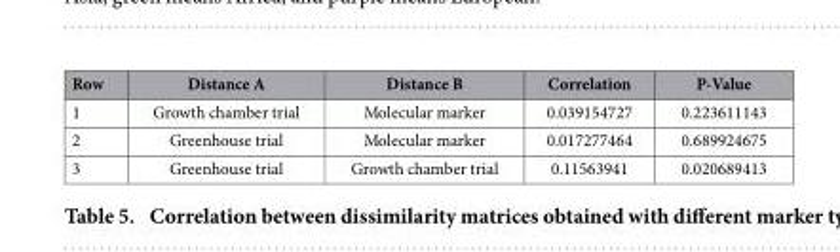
<table><thead><tr><td>Row</td><td>Distance A</td><td>Distance B</td><td>Correlation</td><td>P-Value</td></tr></thead><tbody><tr><td>1</td><td>Growth chamber trial</td><td>Molecular marker</td><td>0.039154727</td><td>0.223611143</td></tr><tr><td>2</td><td>Greenhouse trial</td><td>Molecular marker</td><td>0.017277464</td><td>0.689924675</td></tr><tr><td>3</td><td>Greenhouse trial</td><td>Growth chamber trial</td><td>0.11563941</td><td>0.020689413</td></tr></tbody></table>